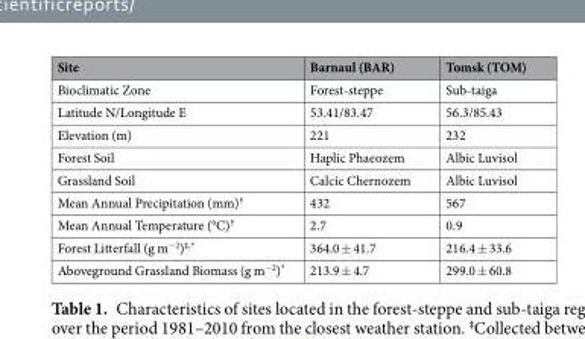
<table><thead><tr><td>Site</td><td>Barnaul (BAR)</td><td>Tomsk (TOM)</td></tr></thead><tbody><tr><td>Bioclimatic Zone</td><td>Forest-steppe</td><td>Sub-taiga</td></tr><tr><td>Latitude N/Longitude E</td><td>53.41/83.47</td><td>56.3/85.43</td></tr><tr><td>Elevation (m)</td><td>221</td><td>232</td></tr><tr><td>Forest Soil</td><td>Haplic Phaeozem</td><td>Albic Luvisol</td></tr><tr><td>Grassland Soil</td><td>Calcic Chernozem</td><td>Albic Luvisol</td></tr><tr><td>Mean Annual Precipitation (mm)<sup>†</sup></td><td>432</td><td>567</td></tr><tr><td>Mean Annual Temperature (°C)<sup>†</sup></td><td>2.7</td><td>0.9</td></tr><tr><td>Forest Litterfall (g m<sup>−2</sup>)<sup>‡,*</sup></td><td>364.0 ± 41.7</td><td>216.4 ± 33.6</td></tr><tr><td>Aboveground Grassland Biomass (g m<sup>−2</sup>)*</td><td>213.9 ± 4.7</td><td>299.0 ± 60.8</td></tr></tbody></table>